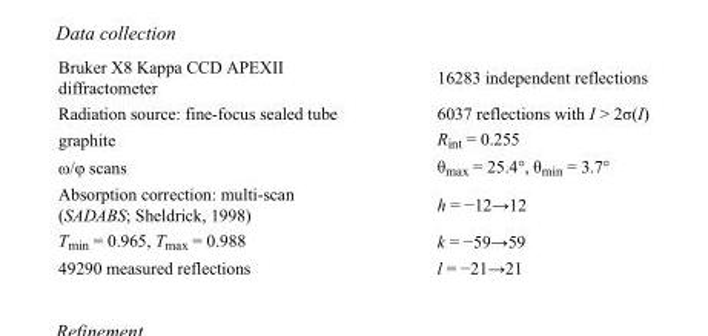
<table><tbody><tr><td>Bruker X8 Kappa CCD APEXII diffractometer</td><td>16283 independent reflections</td></tr><tr><td>Radiation source: fine-focus sealed tube</td><td>6037 reflections with I &gt; 2σ(I)</td></tr><tr><td>graphite</td><td>R<sub>int</sub> = 0.255</td></tr><tr><td>ω/φ scans</td><td>θ<sub>max</sub> = 25.4°, θ<sub>min</sub> = 3.7°</td></tr><tr><td>Absorption correction: multi-scan (SADABS; Sheldrick, 1998)</td><td>h = −12→12</td></tr><tr><td>T<sub>min</sub> = 0.965, T<sub>max</sub> = 0.988</td><td>k = −59→59</td></tr><tr><td>49290 measured reflections</td><td>l = −21→21</td></tr></tbody></table>